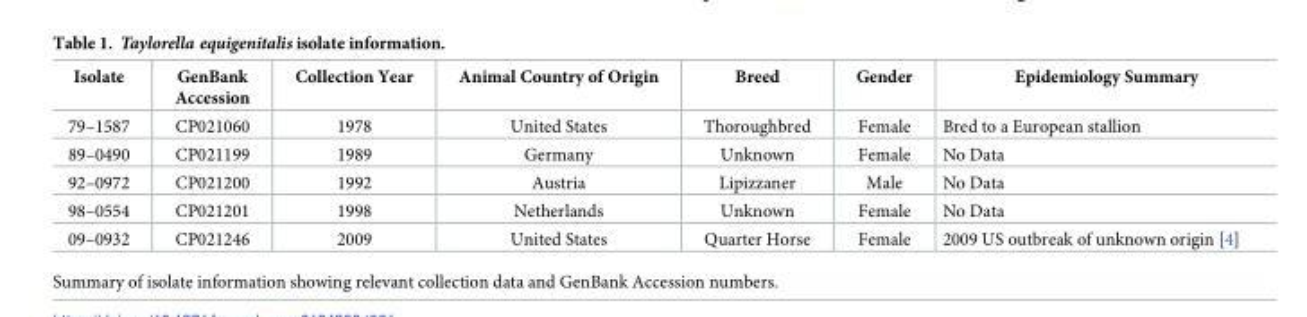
<table><thead><tr><td>Isolate</td><td>GenBank Accession</td><td>Collection Year</td><td>Animal Country of Origin</td><td>Breed</td><td>Gender</td><td>Epidemiology Summary</td></tr></thead><tbody><tr><td>79–1587</td><td>CP021060</td><td>1978</td><td>United States</td><td>Thoroughbred</td><td>Female</td><td>Bred to a European stallion</td></tr><tr><td>89–0490</td><td>CP021199</td><td>1989</td><td>Germany</td><td>Unknown</td><td>Female</td><td>No Data</td></tr><tr><td>92–0972</td><td>CP021200</td><td>1992</td><td>Austria</td><td>Lipizzaner</td><td>Male</td><td>No Data</td></tr><tr><td>98–0554</td><td>CP021201</td><td>1998</td><td>Netherlands</td><td>Unknown</td><td>Female</td><td>No Data</td></tr><tr><td>09–0932</td><td>CP021246</td><td>2009</td><td>United States</td><td>Quarter Horse</td><td>Female</td><td>2009 US outbreak of unknown origin [4]</td></tr></tbody></table>